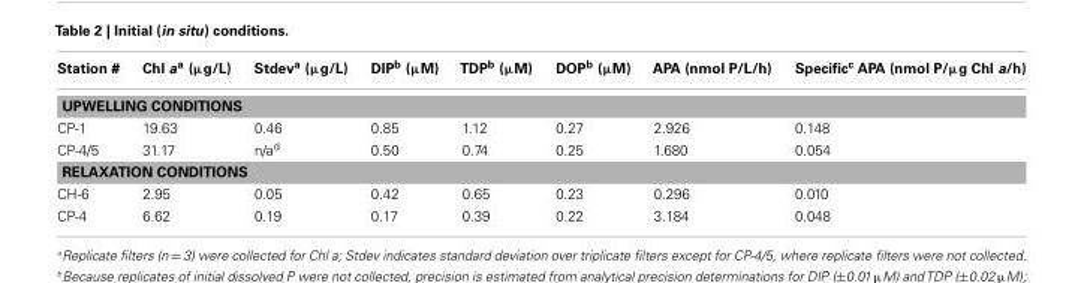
<table><thead><tr><td>Station #</td><td>Chl a<sup>a</sup> (µg/L)</td><td>Stdev<sup>a</sup> (µg/L)</td><td>DIP<sup>b</sup> (µM)</td><td>TDP<sup>b</sup> (µM)</td><td>DOP<sup>b</sup> (µM)</td><td>APA (nmol P/L/h)</td><td>Specific<sup>c</sup> APA (nmol P/µg Chl a/h)</td></tr></thead><tbody><tr><td colspan="8">UPWELLING CONDITIONS</td></tr><tr><td>CP-1</td><td>19.63</td><td>0.46</td><td>0.85</td><td>1.12</td><td>0.27</td><td>2.926</td><td>0.148</td></tr><tr><td>CP-4/5</td><td>31.17</td><td>n/a<sup>d</sup></td><td>0.50</td><td>0.74</td><td>0.25</td><td>1.680</td><td>0.054</td></tr><tr><td colspan="8">RELAXATION CONDITIONS</td></tr><tr><td>CH-6</td><td>2.95</td><td>0.05</td><td>0.42</td><td>0.65</td><td>0.23</td><td>0.296</td><td>0.010</td></tr><tr><td>CP-4</td><td>6.62</td><td>0.19</td><td>0.17</td><td>0.39</td><td>0.22</td><td>3.184</td><td>0.048</td></tr></tbody></table>